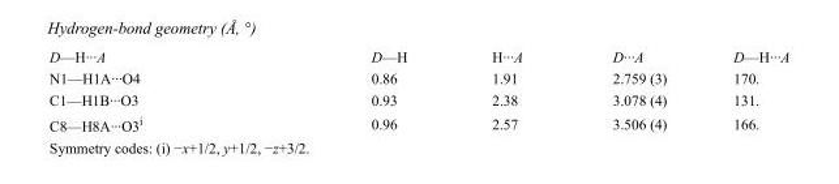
<table><tbody><tr><td>D—H···A</td><td>D—H</td><td>H···A</td><td>D···A</td><td>D—H···A</td></tr><tr><td>N1—H1A···O4</td><td>0.86</td><td>1.91</td><td>2.759 (3)</td><td>170.</td></tr><tr><td>C1—H1B···O3</td><td>0.93</td><td>2.38</td><td>3.078 (4)</td><td>131.</td></tr><tr><td>C8—H8A···O3<sup>i</sup></td><td>0.96</td><td>2.57</td><td>3.506 (4)</td><td>166.</td></tr></tbody></table>